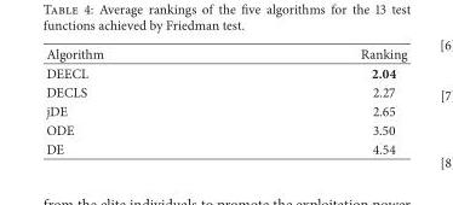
<table><thead><tr><td>Algorithm</td><td>Ranking</td></tr></thead><tbody><tr><td>DEECL</td><td>2.04</td></tr><tr><td>DECLS</td><td>2.27</td></tr><tr><td>jDE</td><td>2.65</td></tr><tr><td>ODE</td><td>3.50</td></tr><tr><td>DE</td><td>4.54</td></tr></tbody></table>